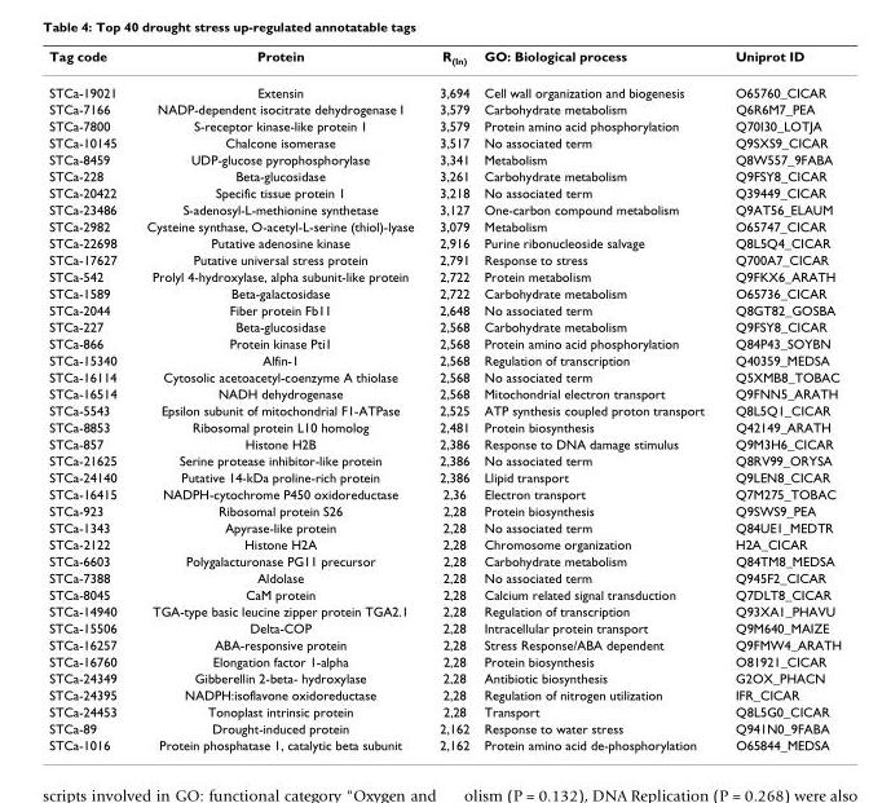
<table><thead><tr><td>Tag code</td><td>Protein</td><td>R<sub>(ln)</sub></td><td>GO: Biological process</td><td>Uniprot ID</td></tr></thead><tbody><tr><td>STCa-19021</td><td>Extensin</td><td>3,694</td><td>Cell wall organization and biogenesis</td><td>O65760_CICAR</td></tr><tr><td>STCa-7166</td><td>NADP-dependent isocitrate dehydrogenase I</td><td>3,579</td><td>Carbohydrate metabolism</td><td>Q6R6M7_PEA</td></tr><tr><td>STCa-7800</td><td>S-receptor kinase-like protein 1</td><td>3,579</td><td>Protein amino acid phosphorylation</td><td>Q70I30_LOTJA</td></tr><tr><td>STCa-10145</td><td>Chalcone isomerase</td><td>3,517</td><td>No associated term</td><td>Q9SXS9_CICAR</td></tr><tr><td>STCa-8459</td><td>UDP-glucose pyrophosphorylase</td><td>3,341</td><td>Metabolism</td><td>Q8W557_9FABA</td></tr><tr><td>STCa-228</td><td>Beta-glucosidase</td><td>3,261</td><td>Carbohydrate metabolism</td><td>Q9FSY8_CICAR</td></tr><tr><td>STCa-20422</td><td>Specific tissue protein 1</td><td>3,218</td><td>No associated term</td><td>Q39449_CICAR</td></tr><tr><td>STCa-23486</td><td>S-adenosyl-L-methionine synthetase</td><td>3,127</td><td>One-carbon compound metabolism</td><td>Q9AT56_ELAUM</td></tr><tr><td>STCa-2982</td><td>Cysteine synthase, O-acetyl-L-serine (thiol)-lyase</td><td>3,079</td><td>Metabolism</td><td>O65747_CICAR</td></tr><tr><td>STCa-22698</td><td>Putative adenosine kinase</td><td>2,916</td><td>Purine ribonucleoside salvage</td><td>Q8L5Q4_CICAR</td></tr><tr><td>STCa-17627</td><td>Putative universal stress protein</td><td>2,791</td><td>Response to stress</td><td>Q700A7_CICAR</td></tr><tr><td>STCa-542</td><td>Prolyl 4-hydroxylase, alpha subunit-like protein</td><td>2,722</td><td>Protein metabolism</td><td>Q9FKX6_ARATH</td></tr><tr><td>STCa-1589</td><td>Beta-galactosidase</td><td>2,722</td><td>Carbohydrate metabolism</td><td>O65736_CICAR</td></tr><tr><td>STCa-2044</td><td>Fiber protein Fb11</td><td>2,648</td><td>No associated term</td><td>Q8GT82_GOSBA</td></tr><tr><td>STCa-227</td><td>Beta-glucosidase</td><td>2,568</td><td>Carbohydrate metabolism</td><td>Q9FSY8_CICAR</td></tr><tr><td>STCa-866</td><td>Protein kinase Pti1</td><td>2,568</td><td>Protein amino acid phosphorylation</td><td>Q84P43_SOYBN</td></tr><tr><td>STCa-15340</td><td>Alfin-1</td><td>2,568</td><td>Regulation of transcription</td><td>Q40359_MEDSA</td></tr><tr><td>STCa-16114</td><td>Cytosolic acetoacetyl-coenzyme A thiolase</td><td>2,568</td><td>No associated term</td><td>Q5XMB8_TOBAC</td></tr><tr><td>STCa-16514</td><td>NADH dehydrogenase</td><td>2,568</td><td>Mitochondrial electron transport</td><td>Q9FNN5_ARATH</td></tr><tr><td>STCa-5543</td><td>Epsilon subunit of mitochondrial F1-ATPase</td><td>2,525</td><td>ATP synthesis coupled proton transport</td><td>Q8L5Q1_CICAR</td></tr><tr><td>STCa-8853</td><td>Ribosomal protein L10 homolog</td><td>2,481</td><td>Protein biosynthesis</td><td>Q42149_ARATH</td></tr><tr><td>STCa-857</td><td>Histone H2B</td><td>2,386</td><td>Response to DNA damage stimulus</td><td>Q9M3H6_CICAR</td></tr><tr><td>STCa-21625</td><td>Serine protease inhibitor-like protein</td><td>2,386</td><td>No associated term</td><td>Q8RV99_ORYSA</td></tr><tr><td>STCa-24140</td><td>Putative 14-kDa proline-rich protein</td><td>2,386</td><td>Llipid transport</td><td>Q9LEN8_CICAR</td></tr><tr><td>STCa-16415</td><td>NADPH-cytochrome P450 oxidoreductase</td><td>2,36</td><td>Electron transport</td><td>Q7M275_TOBAC</td></tr><tr><td>STCa-923</td><td>Ribosomal protein S26</td><td>2,28</td><td>Protein biosynthesis</td><td>Q9SWS9_PEA</td></tr><tr><td>STCa-1343</td><td>Apyrase-like protein</td><td>2,28</td><td>No associated term</td><td>Q84UE1_MEDTR</td></tr><tr><td>STCa-2122</td><td>Histone H2A</td><td>2,28</td><td>Chromosome organization</td><td>H2A_CICAR</td></tr><tr><td>STCa-6603</td><td>Polygalacturonase PG11 precursor</td><td>2,28</td><td>Carbohydrate metabolism</td><td>Q84TM8_MEDSA</td></tr><tr><td>STCa-7388</td><td>Aldolase</td><td>2,28</td><td>No associated term</td><td>Q945F2_CICAR</td></tr><tr><td>STCa-8045</td><td>CaM protein</td><td>2,28</td><td>Calcium related signal transduction</td><td>Q7DLT8_CICAR</td></tr><tr><td>STCa-14940</td><td>TGA-type basic leucine zipper protein TGA2.1</td><td>2,28</td><td>Regulation of transcription</td><td>Q93XA1_PHAVU</td></tr><tr><td>STCa-15506</td><td>Delta-COP</td><td>2,28</td><td>Intracellular protein transport</td><td>Q9M640_MAIZE</td></tr><tr><td>STCa-16257</td><td>ABA-responsive protein</td><td>2,28</td><td>Stress Response/ABA dependent</td><td>Q9FMW4_ARATH</td></tr><tr><td>STCa-16760</td><td>Elongation factor 1-alpha</td><td>2,28</td><td>Protein biosynthesis</td><td>O81921_CICAR</td></tr><tr><td>STCa-24349</td><td>Gibberellin 2-beta- hydroxylase</td><td>2,28</td><td>Antibiotic biosynthesis</td><td>G2OX_PHACN</td></tr><tr><td>STCa-24395</td><td>NADPH:isoflavone oxidoreductase</td><td>2,28</td><td>Regulation of nitrogen utilization</td><td>IFR_CICAR</td></tr><tr><td>STCa-24453</td><td>Tonoplast intrinsic protein</td><td>2,28</td><td>Transport</td><td>Q8L5G0_CICAR</td></tr><tr><td>STCa-89</td><td>Drought-induced protein</td><td>2,162</td><td>Response to water stress</td><td>Q941N0_9FABA</td></tr><tr><td>STCa-1016</td><td>Protein phosphatase 1, catalytic beta subunit</td><td>2,162</td><td>Protein amino acid de-phosphorylation</td><td>O65844_MEDSA</td></tr></tbody></table>